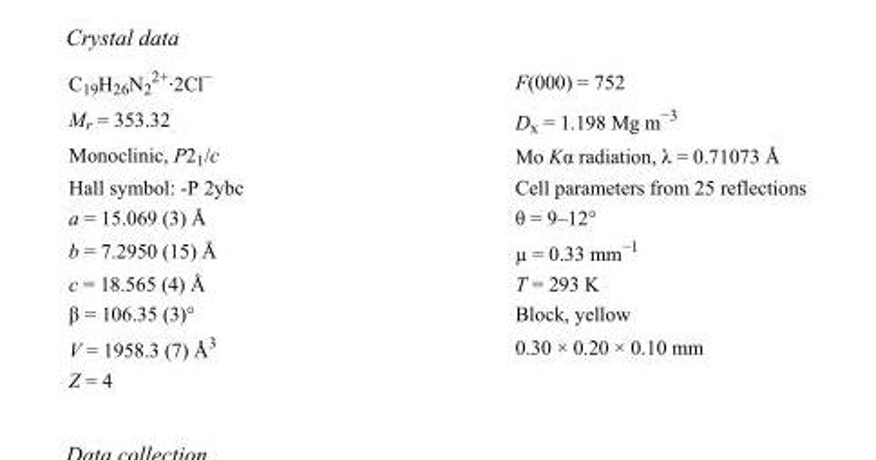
<table><tbody><tr><td>C<sub>19</sub>H<sub>26</sub>N<sub>2</sub> <sup>2+</sup>·2Cl<sup>−</sup></td><td>F(000) = 752</td></tr><tr><td>M<sub>r</sub> = 353.32</td><td>D<sub>x</sub> = 1.198 Mg m<sup>−3</sup></td></tr><tr><td>Monoclinic, P2<sub>1</sub>/c</td><td>Mo Kα radiation, λ = 0.71073 Å</td></tr><tr><td>Hall symbol: -P 2ybc</td><td>Cell parameters from 25 reflections</td></tr><tr><td>a = 15.069 (3) Å</td><td>θ = 9–12°</td></tr><tr><td>b = 7.2950 (15) Å</td><td>µ = 0.33 mm<sup>−1</sup></td></tr><tr><td>c = 18.565 (4) Å</td><td>T = 293 K</td></tr><tr><td>β = 106.35 (3)°</td><td>Block, yellow</td></tr><tr><td>V = 1958.3 (7) Å<sup>3</sup></td><td>0.30 × 0.20 × 0.10 mm</td></tr><tr><td>Z = 4</td><td></td></tr></tbody></table>